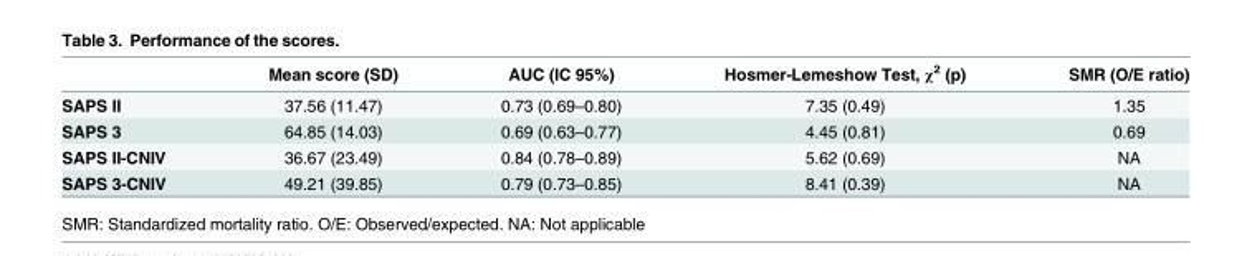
<table><thead><tr><td></td><td>Mean score (SD)</td><td>AUC (IC 95%)</td><td>Hosmer-Lemeshow Test, χ<sup>2</sup> (p)</td><td>SMR (O/E ratio)</td></tr></thead><tbody><tr><td>SAPS II</td><td>37.56 (11.47)</td><td>0.73 (0.69–0.80)</td><td>7.35 (0.49)</td><td>1.35</td></tr><tr><td>SAPS 3</td><td>64.85 (14.03)</td><td>0.69 (0.63–0.77)</td><td>4.45 (0.81)</td><td>0.69</td></tr><tr><td>SAPS II-CNIV</td><td>36.67 (23.49)</td><td>0.84 (0.78–0.89)</td><td>5.62 (0.69)</td><td>NA</td></tr><tr><td>SAPS 3-CNIV</td><td>49.21 (39.85)</td><td>0.79 (0.73–0.85)</td><td>8.41 (0.39)</td><td>NA</td></tr></tbody></table>